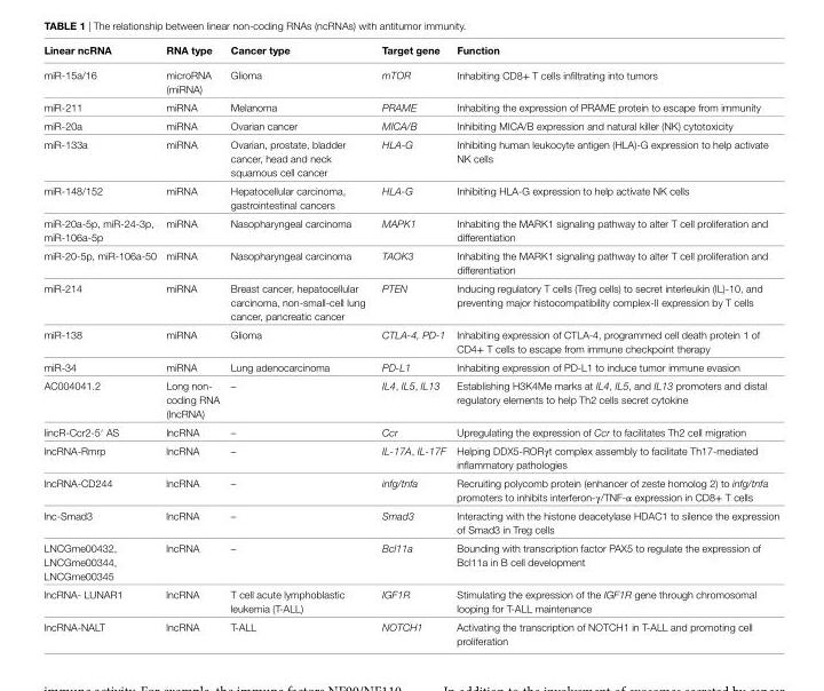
<table><thead><tr><td>Linear ncRNA</td><td>RNA type</td><td>Cancer type</td><td>Target gene</td><td>Function</td></tr></thead><tbody><tr><td>miR-15a/16</td><td>microRNA (miRNA)</td><td>Glioma</td><td>mTOR</td><td>Inhabiting CD8+ T cells infiltrating into tumors</td></tr><tr><td>miR-211</td><td>miRNA</td><td>Melanoma</td><td>PRAME</td><td>Inhabiting the expression of PRAME protein to escape from immunity</td></tr><tr><td>miR-20a</td><td>miRNA</td><td>Ovarian cancer</td><td>MICA/B</td><td>Inhibiting MICA/B expression and natural killer (NK) cytotoxicity</td></tr><tr><td>miR-133a</td><td>miRNA</td><td>Ovarian, prostate, bladder cancer, head and neck squamous cell cancer</td><td>HLA-G</td><td>Inhibiting human leukocyte antigen (HLA)-G expression to help activate NK cells</td></tr><tr><td>miR-148/152</td><td>miRNA</td><td>Hepatocellular carcinoma, gastrointestinal cancers</td><td>HLA-G</td><td>Inhibiting HLA-G expression to help activate NK cells</td></tr><tr><td>miR-20a-5p, miR-24-3p, miR-106a-5p</td><td>miRNA</td><td>Nasopharyngeal carcinoma</td><td>MAPK1</td><td>Inhabiting the MARK1 signaling pathway to alter T cell proliferation and differentiation</td></tr><tr><td>miR-20-5p, miR-106a-50</td><td>miRNA</td><td>Nasopharyngeal carcinoma</td><td>TAOK3</td><td>Inhabiting the MARK1 signaling pathway to alter T cell proliferation and differentiation</td></tr><tr><td>miR-214</td><td>miRNA</td><td>Breast cancer, hepatocellular carcinoma, non-small-cell lung cancer, pancreatic cancer</td><td>PTEN</td><td>Inducing regulatory T cells (Treg cells) to secret interleukin (IL)-10, and preventing major histocompatibility complex-II expression by T cells</td></tr><tr><td>miR-138</td><td>miRNA</td><td>Glioma</td><td>CTLA-4, PD-1</td><td>Inhabiting expression of CTLA-4, programmed cell death protein 1 of CD4+ T cells to escape from immune checkpoint therapy</td></tr><tr><td>miR-34</td><td>miRNA</td><td>Lung adenocarcinoma</td><td>PD-L1</td><td>Inhabiting expression of PD-L1 to induce tumor immune evasion</td></tr><tr><td>AC004041.2</td><td>Long non- coding RNA (lncRNA)</td><td>–</td><td>IL4, IL5, IL13</td><td>Establishing H3K4Me marks at IL4, IL5, and IL13 promoters and distal regulatory elements to help Th2 cells secret cytokine</td></tr><tr><td>lincR-Ccr2-5′ AS</td><td>lncRNA</td><td>–</td><td>Ccr</td><td>Upregulating the expression of Ccr to facilitates Th2 cell migration</td></tr><tr><td>lncRNA-Rmrp</td><td>lncRNA</td><td>–</td><td>IL-17A, IL-17F</td><td>Helping DDX5-RORγt complex assembly to facilitate Th17-mediated inflammatory pathologies</td></tr><tr><td>lncRNA-CD244</td><td>lncRNA</td><td>–</td><td>infg/tnfa</td><td>Recruiting polycomb protein (enhancer of zeste homolog 2) to infg/tnfa promoters to inhibits interferon-γ/TNF-α expression in CD8+ T cells</td></tr><tr><td>lnc-Smad3</td><td>lncRNA</td><td>–</td><td>Smad3</td><td>Interacting with the histone deacetylase HDAC1 to silence the expression of Smad3 in Treg cells</td></tr><tr><td>LNCGme00432, LNCGme00344, LNCGme00345</td><td>lncRNA</td><td>–</td><td>Bcl11a</td><td>Bounding with transcription factor PAX5 to regulate the expression of Bcl11a in B cell development</td></tr><tr><td>lncRNA- LUNAR1</td><td>lncRNA</td><td>T cell acute lymphoblastic leukemia (T-ALL)</td><td>IGF1R</td><td>Stimulating the expression of the IGF1R gene through chromosomal looping for T-ALL maintenance</td></tr><tr><td>lncRNA-NALT</td><td>lncRNA</td><td>T-ALL</td><td>NOTCH1</td><td>Activating the transcription of NOTCH1 in T-ALL and promoting cell proliferation</td></tr></tbody></table>